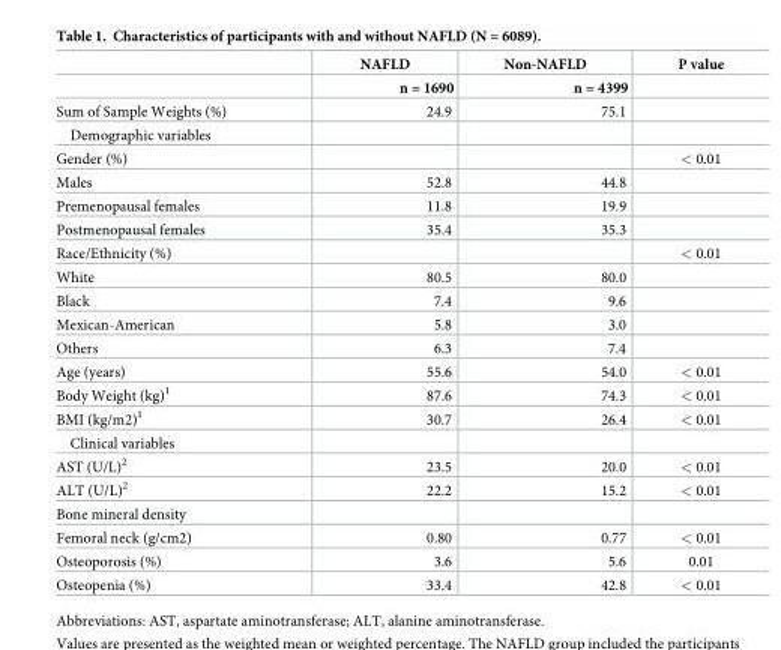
<table><thead><tr><td rowspan="2"></td><td rowspan="2">NAFLD n = 1690</td><td rowspan="2">Non-NAFLD n = 4399</td><td rowspan="2">P value</td></tr><tr></tr></thead><tbody><tr><td>Sum of Sample Weights (%)</td><td>24.9</td><td>75.1</td><td></td></tr><tr><td colspan="4">Demographic variables</td></tr><tr><td>Gender (%)</td><td></td><td></td><td>&lt; 0.01</td></tr><tr><td>Males</td><td>52.8</td><td>44.8</td><td></td></tr><tr><td>Premenopausal females</td><td>11.8</td><td>19.9</td><td></td></tr><tr><td>Postmenopausal females</td><td>35.4</td><td>35.3</td><td></td></tr><tr><td>Race/Ethnicity (%)</td><td></td><td></td><td>&lt; 0.01</td></tr><tr><td>White</td><td>80.5</td><td>80.0</td><td></td></tr><tr><td>Black</td><td>7.4</td><td>9.6</td><td></td></tr><tr><td>Mexican-American</td><td>5.8</td><td>3.0</td><td></td></tr><tr><td>Others</td><td>6.3</td><td>7.4</td><td></td></tr><tr><td>Age (years)</td><td>55.6</td><td>54.0</td><td>&lt; 0.01</td></tr><tr><td>Body Weight (kg)<sup>1</sup></td><td>87.6</td><td>74.3</td><td>&lt; 0.01</td></tr><tr><td>BMI (kg/m2)<sup>1</sup></td><td>30.7</td><td>26.4</td><td>&lt; 0.01</td></tr><tr><td colspan="4">Clinical variables</td></tr><tr><td>AST (U/L)<sup>2</sup></td><td>23.5</td><td>20.0</td><td>&lt; 0.01</td></tr><tr><td>ALT (U/L)<sup>2</sup></td><td>22.2</td><td>15.2</td><td>&lt; 0.01</td></tr><tr><td colspan="4">Bone mineral density</td></tr><tr><td>Femoral neck (g/cm2)</td><td>0.80</td><td>0.77</td><td>&lt; 0.01</td></tr><tr><td>Osteoporosis (%)</td><td>3.6</td><td>5.6</td><td>0.01</td></tr><tr><td>Osteopenia (%)</td><td>33.4</td><td>42.8</td><td>&lt; 0.01</td></tr></tbody></table>